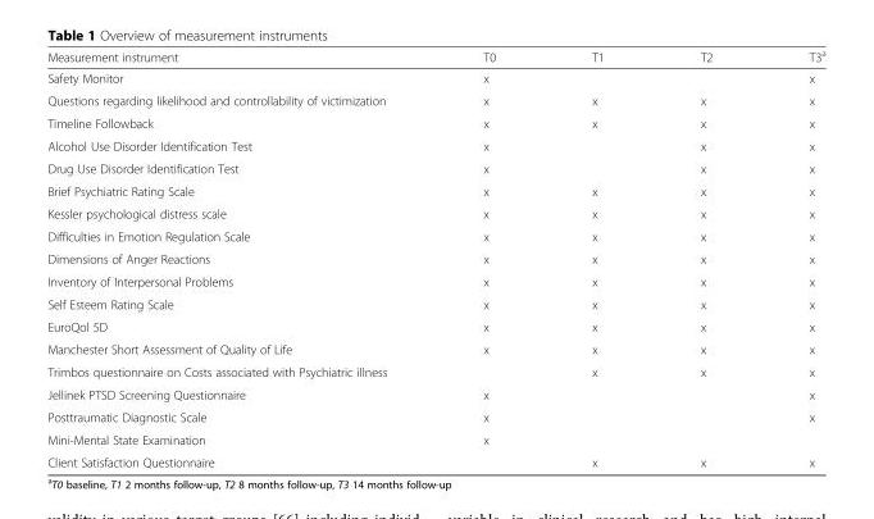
<table><thead><tr><td>Measurement instrument</td><td>T0</td><td>T1</td><td>T2</td><td>T3<sup>a</sup></td></tr></thead><tbody><tr><td>Safety Monitor</td><td>x</td><td></td><td></td><td>x</td></tr><tr><td>Questions regarding likelihood and controllability of victimization</td><td>x</td><td>x</td><td>x</td><td>x</td></tr><tr><td>Timeline Followback</td><td>x</td><td>x</td><td>x</td><td>x</td></tr><tr><td>Alcohol Use Disorder Identification Test</td><td>x</td><td></td><td>x</td><td>x</td></tr><tr><td>Drug Use Disorder Identification Test</td><td>x</td><td></td><td>x</td><td>x</td></tr><tr><td>Brief Psychiatric Rating Scale</td><td>x</td><td>x</td><td>x</td><td>x</td></tr><tr><td>Kessler psychological distress scale</td><td>x</td><td>x</td><td>x</td><td>x</td></tr><tr><td>Difficulties in Emotion Regulation Scale</td><td>x</td><td>x</td><td>x</td><td>x</td></tr><tr><td>Dimensions of Anger Reactions</td><td>x</td><td>x</td><td>x</td><td>x</td></tr><tr><td>Inventory of Interpersonal Problems</td><td>x</td><td>x</td><td>x</td><td>x</td></tr><tr><td>Self Esteem Rating Scale</td><td>x</td><td>x</td><td>x</td><td>x</td></tr><tr><td>EuroQol 5D</td><td>x</td><td>x</td><td>x</td><td>x</td></tr><tr><td>Manchester Short Assessment of Quality of Life</td><td>x</td><td>x</td><td>x</td><td>x</td></tr><tr><td>Trimbos questionnaire on Costs associated with Psychiatric illness</td><td></td><td>x</td><td>x</td><td>x</td></tr><tr><td>Jellinek PTSD Screening Questionnaire</td><td>x</td><td></td><td></td><td>x</td></tr><tr><td>Posttraumatic Diagnostic Scale</td><td>x</td><td></td><td></td><td>x</td></tr><tr><td>Mini-Mental State Examination</td><td>x</td><td></td><td></td><td></td></tr><tr><td>Client Satisfaction Questionnaire</td><td></td><td>x</td><td>x</td><td>x</td></tr></tbody></table>